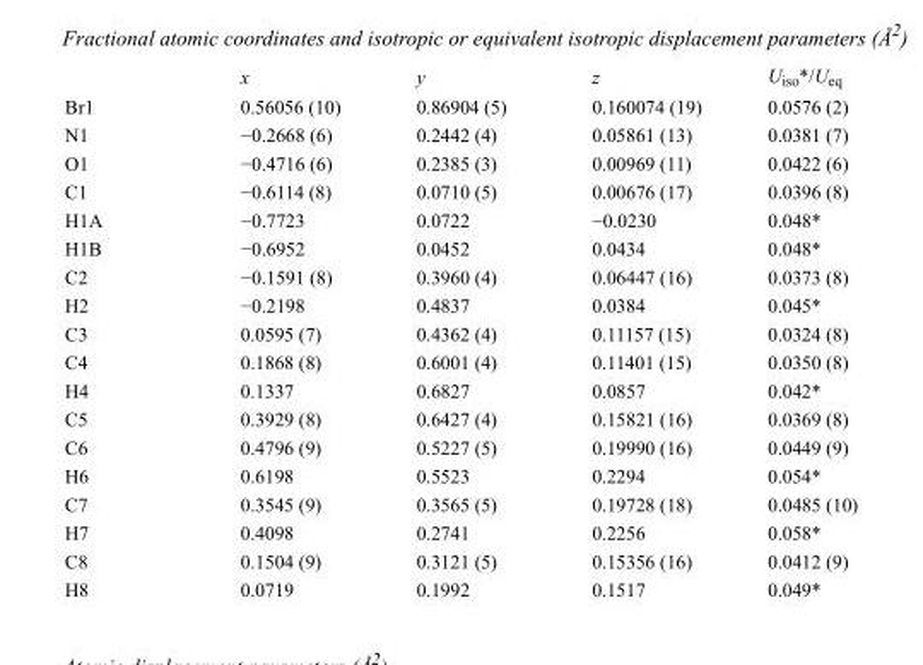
<table><thead><tr><td></td><td>x</td><td>y</td><td>z</td><td>U<sub>iso</sub>*/U<sub>eq</sub></td></tr></thead><tbody><tr><td>Br1</td><td>0.56056 (10)</td><td>0.86904 (5)</td><td>0.160074 (19)</td><td>0.0576 (2)</td></tr><tr><td>N1</td><td>−0.2668 (6)</td><td>0.2442 (4)</td><td>0.05861 (13)</td><td>0.0381 (7)</td></tr><tr><td>O1</td><td>−0.4716 (6)</td><td>0.2385 (3)</td><td>0.00969 (11)</td><td>0.0422 (6)</td></tr><tr><td>C1</td><td>−0.6114 (8)</td><td>0.0710 (5)</td><td>0.00676 (17)</td><td>0.0396 (8)</td></tr><tr><td>H1A</td><td>−0.7723</td><td>0.0722</td><td>−0.0230</td><td>0.048*</td></tr><tr><td>H1B</td><td>−0.6952</td><td>0.0452</td><td>0.0434</td><td>0.048*</td></tr><tr><td>C2</td><td>−0.1591 (8)</td><td>0.3960 (4)</td><td>0.06447 (16)</td><td>0.0373 (8)</td></tr><tr><td>H2</td><td>−0.2198</td><td>0.4837</td><td>0.0384</td><td>0.045*</td></tr><tr><td>C3</td><td>0.0595 (7)</td><td>0.4362 (4)</td><td>0.11157 (15)</td><td>0.0324 (8)</td></tr><tr><td>C4</td><td>0.1868 (8)</td><td>0.6001 (4)</td><td>0.11401 (15)</td><td>0.0350 (8)</td></tr><tr><td>H4</td><td>0.1337</td><td>0.6827</td><td>0.0857</td><td>0.042*</td></tr><tr><td>C5</td><td>0.3929 (8)</td><td>0.6427 (4)</td><td>0.15821 (16)</td><td>0.0369 (8)</td></tr><tr><td>C6</td><td>0.4796 (9)</td><td>0.5227 (5)</td><td>0.19990 (16)</td><td>0.0449 (9)</td></tr><tr><td>H6</td><td>0.6198</td><td>0.5523</td><td>0.2294</td><td>0.054*</td></tr><tr><td>C7</td><td>0.3545 (9)</td><td>0.3565 (5)</td><td>0.19728 (18)</td><td>0.0485 (10)</td></tr><tr><td>H7</td><td>0.4098</td><td>0.2741</td><td>0.2256</td><td>0.058*</td></tr><tr><td>C8</td><td>0.1504 (9)</td><td>0.3121 (5)</td><td>0.15356 (16)</td><td>0.0412 (9)</td></tr><tr><td>H8</td><td>0.0719</td><td>0.1992</td><td>0.1517</td><td>0.049*</td></tr></tbody></table>